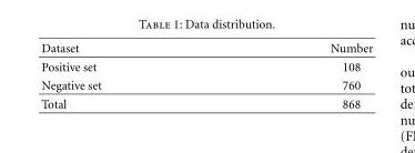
<table><thead><tr><td>Dataset</td><td>Number</td></tr></thead><tbody><tr><td>Positive set</td><td>108</td></tr><tr><td>Negative set</td><td>760</td></tr><tr><td>Total</td><td>868</td></tr></tbody></table>